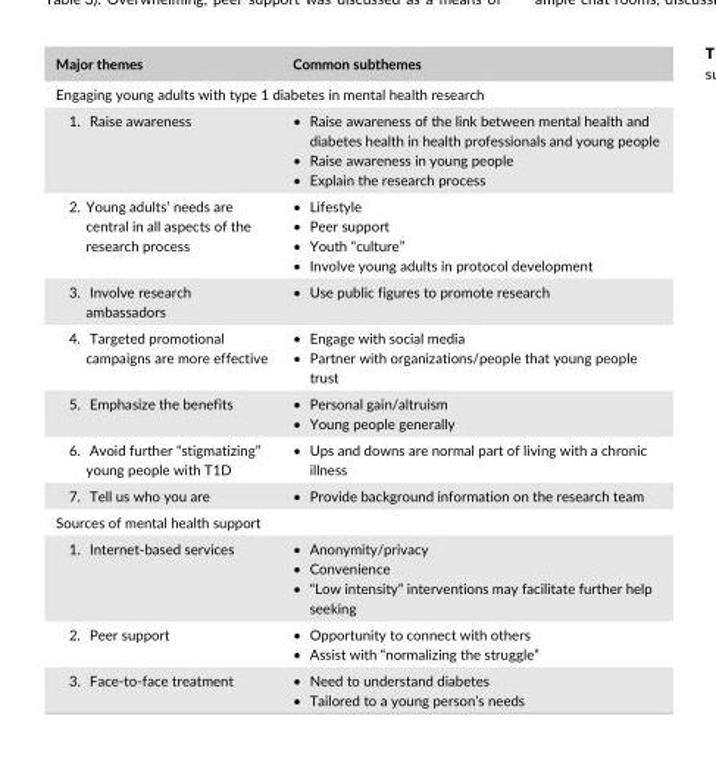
<table><thead><tr><td>Major themes</td><td>Common subthemes</td></tr></thead><tbody><tr><td colspan="2">Engaging young adults with type 1 diabetes in mental health research</td></tr><tr><td>1. Raise awareness</td><td>• Raise awareness of the link between mental health and diabetes health in health professionals and young people • Raise awareness in young people • Explain the research process</td></tr><tr><td>2. Young adults’ needs are central in all aspects of the research process</td><td>• Lifestyle • Peer support • Youth “culture” • Involve young adults in protocol development</td></tr><tr><td>3. Involve research ambassadors</td><td>• Use public figures to promote research</td></tr><tr><td>4. Targeted promotional campaigns are more effective</td><td>• Engage with social media • Partner with organizations/people that young people trust</td></tr><tr><td>5. Emphasize the benefits</td><td>• Personal gain/altruism • Young people generally</td></tr><tr><td>6. Avoid further “stigmatizing” young people with T1D</td><td>• Ups and downs are normal part of living with a chronic illness</td></tr><tr><td>7. Tell us who you are</td><td>• Provide background information on the research team</td></tr><tr><td colspan="2">Sources of mental health support</td></tr><tr><td>1. Internet-based services</td><td>• Anonymity/privacy • Convenience • “Low intensity” interventions may facilitate further help seeking</td></tr><tr><td>2. Peer support</td><td>• Opportunity to connect with others • Assist with “normalizing the struggle”</td></tr><tr><td>3. Face-to-face treatment</td><td>• Need to understand diabetes • Tailored to a young person’s needs</td></tr></tbody></table>